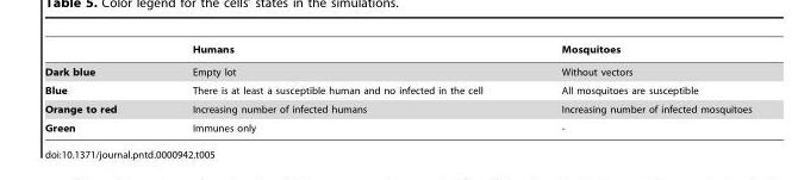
<table><thead><tr><td></td><td>Humans</td><td>Mosquitoes</td></tr></thead><tbody><tr><td>Dark blue</td><td>Empty lot</td><td>Without vectors</td></tr><tr><td>Blue</td><td>There is at least a susceptible human and no infected in the cell</td><td>All mosquitoes are susceptible</td></tr><tr><td>Orange to red</td><td>Increasing number of infected humans</td><td>Increasing number of infected mosquitoes</td></tr><tr><td>Green</td><td>Immunes only</td><td>-</td></tr></tbody></table>